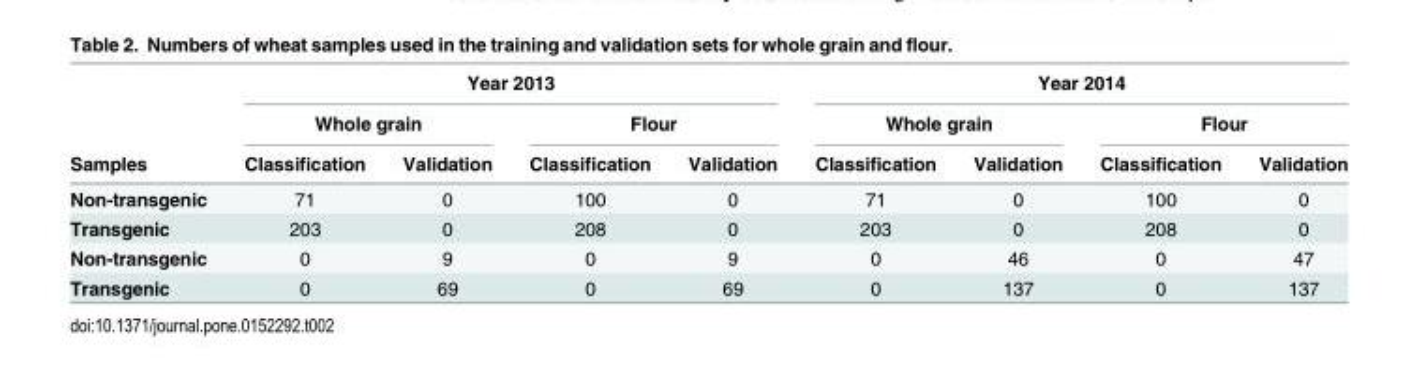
<table><thead><tr><td rowspan="3">Samples</td><td colspan="4">Year 2013</td><td colspan="4">Year 2014</td></tr><tr><td colspan="2">Whole grain</td><td colspan="2">Flour</td><td colspan="2">Whole grain</td><td colspan="2">Flour</td></tr><tr><td>Classification</td><td>Validation</td><td>Classification</td><td>Validation</td><td>Classification</td><td>Validation</td><td>Classification</td><td>Validation</td></tr></thead><tbody><tr><td>Non-transgenic</td><td>71</td><td>0</td><td>100</td><td>0</td><td>71</td><td>0</td><td>100</td><td>0</td></tr><tr><td>Transgenic</td><td>203</td><td>0</td><td>208</td><td>0</td><td>203</td><td>0</td><td>208</td><td>0</td></tr><tr><td>Non-transgenic</td><td>0</td><td>9</td><td>0</td><td>9</td><td>0</td><td>46</td><td>0</td><td>47</td></tr><tr><td>Transgenic</td><td>0</td><td>69</td><td>0</td><td>69</td><td>0</td><td>137</td><td>0</td><td>137</td></tr></tbody></table>